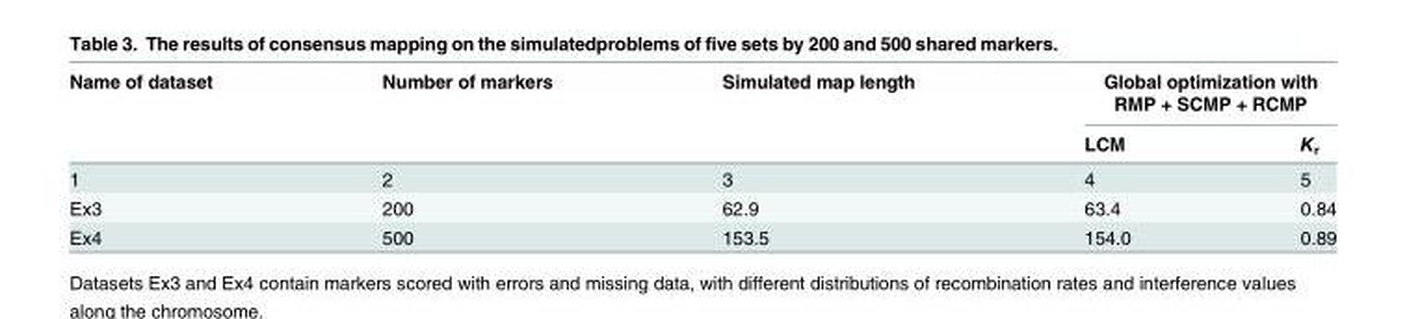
<table><thead><tr><td rowspan="2">Name of dataset</td><td rowspan="2">Number of markers</td><td rowspan="2">Simulated map length</td><td colspan="2">Global optimization with RMP + SCMP + RCMP</td></tr><tr><td>LCM</td><td>K<sub>r</sub></td></tr></thead><tbody><tr><td>1</td><td>2</td><td>3</td><td>4</td><td>5</td></tr><tr><td>Ex3</td><td>200</td><td>62.9</td><td>63.4</td><td>0.84</td></tr><tr><td>Ex4</td><td>500</td><td>153.5</td><td>154.0</td><td>0.89</td></tr></tbody></table>